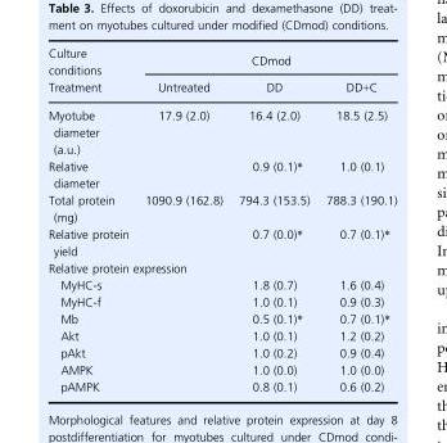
<table><thead><tr><td rowspan="2">Culture conditions Treatment</td><td colspan="3">CDmod</td></tr><tr><td>Untreated</td><td>DD</td><td>DD+C</td></tr></thead><tbody><tr><td>Myotube diameter (a.u.)</td><td>17.9 (2.0)</td><td>16.4 (2.0)</td><td>18.5 (2.5)</td></tr><tr><td>Relative diameter</td><td></td><td>0.9 (0.1)*</td><td>1.0 (0.1)</td></tr><tr><td>Total protein (mg)</td><td>1090.9 (162.8)</td><td>794.3 (153.5)</td><td>788.3 (190.1)</td></tr><tr><td>Relative protein yield</td><td></td><td>0.7 (0.0)*</td><td>0.7 (0.1)*</td></tr><tr><td colspan="4">Relative protein expression</td></tr><tr><td>MyHC-s</td><td></td><td>1.8 (0.7)</td><td>1.6 (0.4)</td></tr><tr><td>MyHC-f</td><td></td><td>1.0 (0.1)</td><td>0.9 (0.3)</td></tr><tr><td>Mb</td><td></td><td>0.5 (0.1)*</td><td>0.7 (0.1)*</td></tr><tr><td>Akt</td><td></td><td>1.0 (0.1)</td><td>1.2 (0.2)</td></tr><tr><td>pAkt</td><td></td><td>1.0 (0.2)</td><td>0.9 (0.4)</td></tr><tr><td>AMPK</td><td></td><td>1.0 (0.0)</td><td>1.0 (0.0)</td></tr><tr><td>pAMPK</td><td></td><td>0.8 (0.1)</td><td>0.6 (0.2)</td></tr></tbody></table>